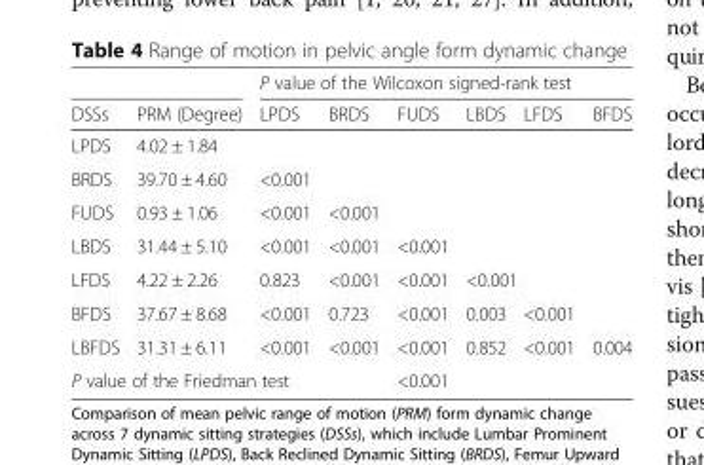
<table><thead><tr><td rowspan="2">DSSs</td><td rowspan="2">PRM (Degree)</td><td colspan="6">P value of the Wilcoxon signed-rank test</td></tr><tr><td>LPDS</td><td>BRDS</td><td>FUDS</td><td>LBDS</td><td>LFDS</td><td>BFDS</td></tr></thead><tbody><tr><td>LPDS</td><td colspan="7">4.02 ± 1.84</td></tr><tr><td>BRDS</td><td>39.70 ± 4.60</td><td colspan="6">&lt;0.001</td></tr><tr><td>FUDS</td><td>0.93 ± 1.06</td><td>&lt;0.001</td><td colspan="5">&lt;0.001</td></tr><tr><td>LBDS</td><td>31.44 ± 5.10</td><td>&lt;0.001</td><td>&lt;0.001</td><td colspan="4">&lt;0.001</td></tr><tr><td>LFDS</td><td>4.22 ± 2.26</td><td>0.823</td><td>&lt;0.001</td><td>&lt;0.001</td><td colspan="3">&lt;0.001</td></tr><tr><td>BFDS</td><td>37.67 ± 8.68</td><td>&lt;0.001</td><td>0.723</td><td>&lt;0.001</td><td>0.003</td><td colspan="2">&lt;0.001</td></tr><tr><td>LBFDS</td><td>31.31 ± 6.11</td><td>&lt;0.001</td><td>&lt;0.001</td><td>&lt;0.001</td><td>0.852</td><td>&lt;0.001</td><td>0.004</td></tr><tr><td colspan="4">P value of the Friedman test</td><td colspan="4">&lt;0.001</td></tr></tbody></table>